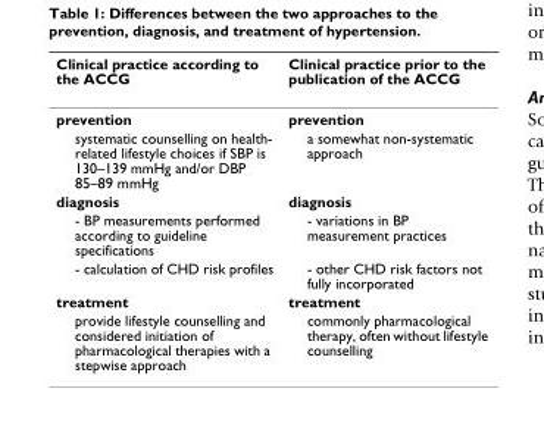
<table><thead><tr><td>Clinical practice according to the ACCG</td><td>Clinical practice prior to the publication of the ACCG</td></tr></thead><tbody><tr><td>prevention</td><td>prevention</td></tr><tr><td>systematic counselling on health- related lifestyle choices if SBP is 130–139 mmHg and/or DBP 85–89 mmHg</td><td>a somewhat non-systematic approach</td></tr><tr><td>diagnosis</td><td>diagnosis</td></tr><tr><td>- BP measurements performed according to guideline specifications</td><td>- variations in BP measurement practices</td></tr><tr><td>- calculation of CHD risk profiles</td><td>- other CHD risk factors not fully incorporated</td></tr><tr><td>treatment</td><td>treatment</td></tr><tr><td>provide lifestyle counselling and considered initiation of pharmacological therapies with a stepwise approach</td><td>commonly pharmacological therapy, often without lifestyle counselling</td></tr></tbody></table>